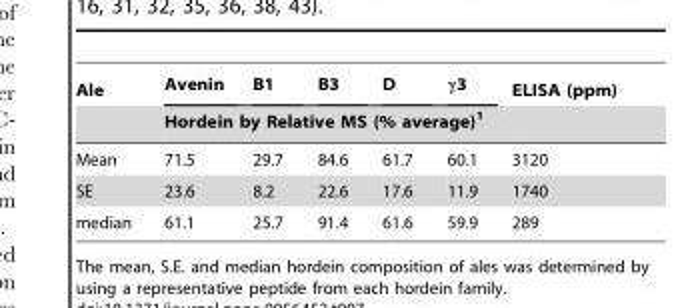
<table><thead><tr><td rowspan="2">Ale</td><td>Avenin</td><td>B1</td><td>B3</td><td>D</td><td>γ3</td><td rowspan="2">ELISA (ppm)</td></tr><tr><td colspan="5">Hordein by Relative MS (% average)<sup>1</sup></td></tr></thead><tbody><tr><td>Mean</td><td>71.5</td><td>29.7</td><td>84.6</td><td>61.7</td><td>60.1</td><td>3120</td></tr><tr><td>SE</td><td>23.6</td><td>8.2</td><td>22.6</td><td>17.6</td><td>11.9</td><td>1740</td></tr><tr><td>median</td><td>61.1</td><td>25.7</td><td>91.4</td><td>61.6</td><td>59.9</td><td>289</td></tr></tbody></table>